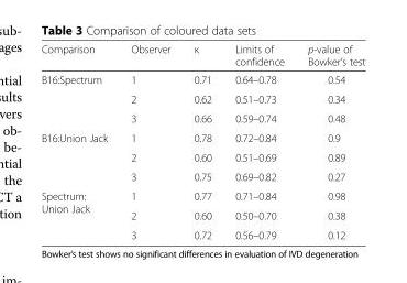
<table><thead><tr><td>Comparison</td><td>Observer</td><td>ĸ</td><td>Limits of confidence</td><td>p-value of Bowker’s test</td></tr></thead><tbody><tr><td rowspan="3">B16:Spectrum</td><td>1</td><td>0.71</td><td>0.64–0.78</td><td>0.54</td></tr><tr><td>2</td><td>0.62</td><td>0.51–0.73</td><td>0.34</td></tr><tr><td>3</td><td>0.66</td><td>0.59–0.74</td><td>0.48</td></tr><tr><td rowspan="3">B16:Union Jack</td><td>1</td><td>0.78</td><td>0.72–0.84</td><td>0.9</td></tr><tr><td>2</td><td>0.60</td><td>0.51–0.69</td><td>0.89</td></tr><tr><td>3</td><td>0.75</td><td>0.69–0.82</td><td>0.27</td></tr><tr><td rowspan="3">Spectrum: Union Jack</td><td>1</td><td>0.77</td><td>0.71–0.84</td><td>0.98</td></tr><tr><td>2</td><td>0.60</td><td>0.50–0.70</td><td>0.38</td></tr><tr><td>3</td><td>0.72</td><td>0.56–0.79</td><td>0.12</td></tr></tbody></table>